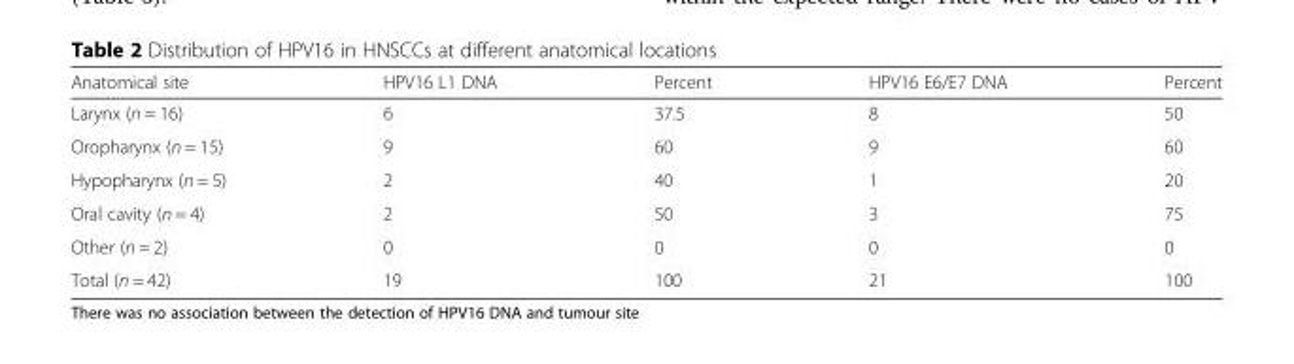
<table><thead><tr><td>Anatomical site</td><td>HPV16 L1 DNA</td><td>Percent</td><td>HPV16 E6/E7 DNA</td><td>Percent</td></tr></thead><tbody><tr><td>Larynx (n = 16)</td><td>6</td><td>37.5</td><td>8</td><td>50</td></tr><tr><td>Oropharynx (n = 15)</td><td>9</td><td>60</td><td>9</td><td>60</td></tr><tr><td>Hypopharynx (n = 5)</td><td>2</td><td>40</td><td>1</td><td>20</td></tr><tr><td>Oral cavity (n = 4)</td><td>2</td><td>50</td><td>3</td><td>75</td></tr><tr><td>Other (n = 2)</td><td>0</td><td>0</td><td>0</td><td>0</td></tr><tr><td>Total (n = 42)</td><td>19</td><td>100</td><td>21</td><td>100</td></tr></tbody></table>